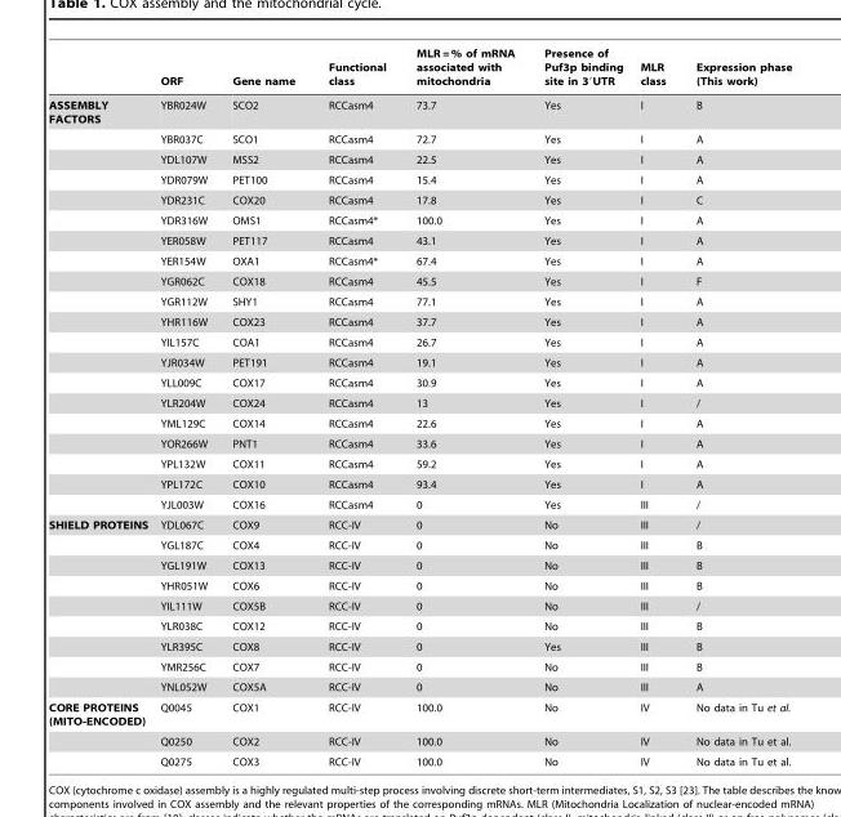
<table><thead><tr><td></td><td>ORF</td><td>Gene name</td><td>Functional class</td><td>MLR = % of mRNA associated with mitochondria</td><td>Presence of Puf3p binding site in 3′UTR</td><td>MLR class</td><td>Expression phase (This work)</td></tr></thead><tbody><tr><td rowspan="20">ASSEMBLY FACTORS</td><td>YBR024W</td><td>SCO2</td><td>RCCasm4</td><td>73.7</td><td>Yes</td><td>I</td><td>B</td></tr><tr><td>YBR037C</td><td>SCO1</td><td>RCCasm4</td><td>72.7</td><td>Yes</td><td>I</td><td>A</td></tr><tr><td>YDL107W</td><td>MSS2</td><td>RCCasm4</td><td>22.5</td><td>Yes</td><td>I</td><td>A</td></tr><tr><td>YDR079W</td><td>PET100</td><td>RCCasm4</td><td>15.4</td><td>Yes</td><td>I</td><td>A</td></tr><tr><td>YDR231C</td><td>COX20</td><td>RCCasm4</td><td>17.8</td><td>Yes</td><td>I</td><td>C</td></tr><tr><td>YDR316W</td><td>OMS1</td><td>RCCasm4*</td><td>100.0</td><td>Yes</td><td>I</td><td>A</td></tr><tr><td>YER058W</td><td>PET117</td><td>RCCasm4</td><td>43.1</td><td>Yes</td><td>I</td><td>A</td></tr><tr><td>YER154W</td><td>OXA1</td><td>RCCasm4*</td><td>67.4</td><td>Yes</td><td>I</td><td>A</td></tr><tr><td>YGR062C</td><td>COX18</td><td>RCCasm4</td><td>45.5</td><td>Yes</td><td>I</td><td>F</td></tr><tr><td>YGR112W</td><td>SHY1</td><td>RCCasm4</td><td>77.1</td><td>Yes</td><td>I</td><td>A</td></tr><tr><td>YHR116W</td><td>COX23</td><td>RCCasm4</td><td>37.7</td><td>Yes</td><td>I</td><td>A</td></tr><tr><td>YIL157C</td><td>COA1</td><td>RCCasm4</td><td>26.7</td><td>Yes</td><td>I</td><td>A</td></tr><tr><td>YJR034W</td><td>PET191</td><td>RCCasm4</td><td>19.1</td><td>Yes</td><td>I</td><td>A</td></tr><tr><td>YLL009C</td><td>COX17</td><td>RCCasm4</td><td>30.9</td><td>Yes</td><td>I</td><td>A</td></tr><tr><td>YLR204W</td><td>COX24</td><td>RCCasm4</td><td>13</td><td>Yes</td><td>I</td><td>/</td></tr><tr><td>YML129C</td><td>COX14</td><td>RCCasm4</td><td>22.6</td><td>Yes</td><td>I</td><td>A</td></tr><tr><td>YOR266W</td><td>PNT1</td><td>RCCasm4</td><td>33.6</td><td>Yes</td><td>I</td><td>A</td></tr><tr><td>YPL132W</td><td>COX11</td><td>RCCasm4</td><td>59.2</td><td>Yes</td><td>I</td><td>A</td></tr><tr><td>YPL172C</td><td>COX10</td><td>RCCasm4</td><td>93.4</td><td>Yes</td><td>I</td><td>A</td></tr><tr><td>YJL003W</td><td>COX16</td><td>RCCasm4</td><td>0</td><td>Yes</td><td>III</td><td>/</td></tr><tr><td rowspan="9">SHIELD PROTEINS</td><td>YDL067C</td><td>COX9</td><td>RCC-IV</td><td>0</td><td>No</td><td>III</td><td>/</td></tr><tr><td>YGL187C</td><td>COX4</td><td>RCC-IV</td><td>0</td><td>No</td><td>III</td><td>B</td></tr><tr><td>YGL191W</td><td>COX13</td><td>RCC-IV</td><td>0</td><td>No</td><td>III</td><td>B</td></tr><tr><td>YHR051W</td><td>COX6</td><td>RCC-IV</td><td>0</td><td>No</td><td>III</td><td>B</td></tr><tr><td>YIL111W</td><td>COX5B</td><td>RCC-IV</td><td>0</td><td>No</td><td>III</td><td>/</td></tr><tr><td>YLR038C</td><td>COX12</td><td>RCC-IV</td><td>0</td><td>No</td><td>III</td><td>B</td></tr><tr><td>YLR395C</td><td>COX8</td><td>RCC-IV</td><td>0</td><td>Yes</td><td>III</td><td>B</td></tr><tr><td>YMR256C</td><td>COX7</td><td>RCC-IV</td><td>0</td><td>No</td><td>III</td><td>B</td></tr><tr><td>YNL052W</td><td>COX5A</td><td>RCC-IV</td><td>0</td><td>No</td><td>III</td><td>A</td></tr><tr><td rowspan="3">CORE PROTEINS (MITO-ENCODED)</td><td>Q0045</td><td>COX1</td><td>RCC-IV</td><td>100.0</td><td>No</td><td>IV</td><td>No data in Tu et al.</td></tr><tr><td>Q0250</td><td>COX2</td><td>RCC-IV</td><td>100.0</td><td>No</td><td>IV</td><td>No data in Tu et al.</td></tr><tr><td>Q0275</td><td>COX3</td><td>RCC-IV</td><td>100.0</td><td>No</td><td>IV</td><td>No data in Tu et al.</td></tr></tbody></table>